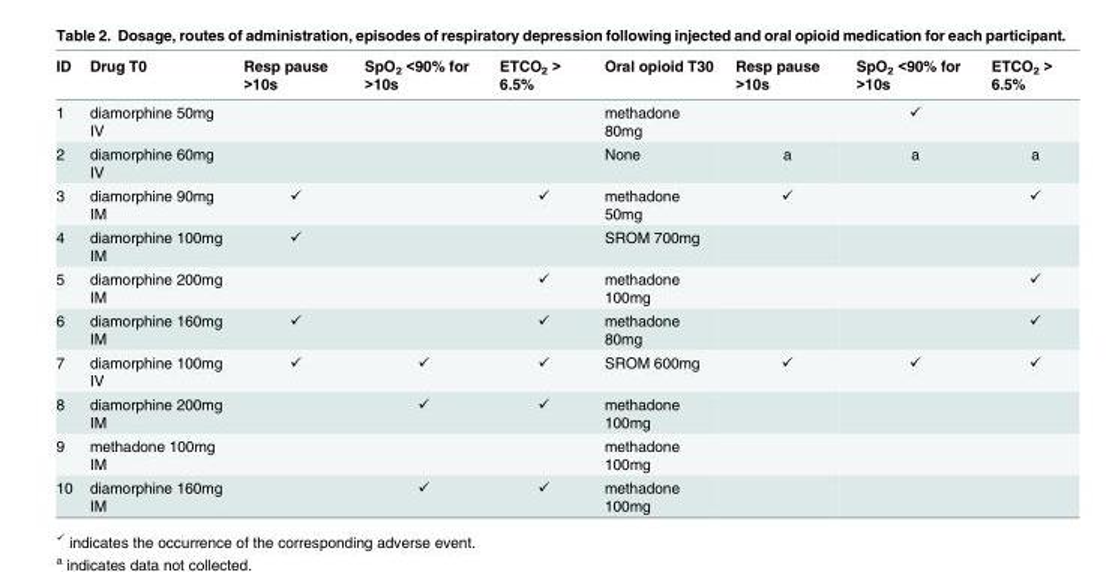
<table><thead><tr><td>ID</td><td>Drug T0</td><td>Resp pause &gt;10s</td><td>SpO<sub>2</sub> &lt;90% for &gt;10s</td><td>ETCO<sub>2</sub> &gt; 6.5%</td><td>Oral opioid T30</td><td>Resp pause &gt;10s</td><td>SpO<sub>2</sub> &lt;90% for &gt;10s</td><td>ETCO<sub>2</sub> &gt; 6.5%</td></tr></thead><tbody><tr><td>1</td><td>diamorphine 50mg IV</td><td></td><td></td><td></td><td>methadone 80mg</td><td></td><td>✓</td><td></td></tr><tr><td>2</td><td>diamorphine 60mg IV</td><td></td><td></td><td></td><td>None</td><td>a</td><td>a</td><td>a</td></tr><tr><td>3</td><td>diamorphine 90mg IM</td><td>✓</td><td></td><td>✓</td><td>methadone 50mg</td><td>✓</td><td></td><td>✓</td></tr><tr><td>4</td><td>diamorphine 100mg IM</td><td>✓</td><td></td><td></td><td>SROM 700mg</td><td></td><td></td><td></td></tr><tr><td>5</td><td>diamorphine 200mg IM</td><td></td><td></td><td>✓</td><td>methadone 100mg</td><td></td><td></td><td>✓</td></tr><tr><td>6</td><td>diamorphine 160mg IM</td><td>✓</td><td></td><td>✓</td><td>methadone 80mg</td><td></td><td></td><td>✓</td></tr><tr><td>7</td><td>diamorphine 100mg IV</td><td>✓</td><td>✓</td><td>✓</td><td>SROM 600mg</td><td>✓</td><td>✓</td><td>✓</td></tr><tr><td>8</td><td>diamorphine 200mg IM</td><td></td><td>✓</td><td>✓</td><td>methadone 100mg</td><td></td><td></td><td></td></tr><tr><td>9</td><td>methadone 100mg IM</td><td></td><td></td><td></td><td>methadone 100mg</td><td></td><td></td><td></td></tr><tr><td>10</td><td>diamorphine 160mg IM</td><td></td><td>✓</td><td>✓</td><td>methadone 100mg</td><td></td><td></td><td></td></tr></tbody></table>